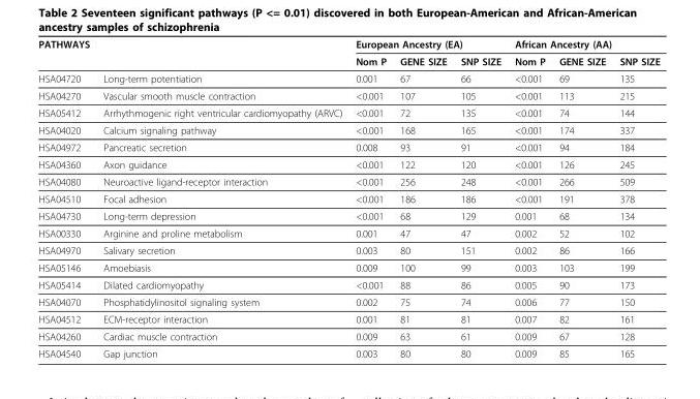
<table><thead><tr><td rowspan="2">PATHWAYS</td><td rowspan="2"></td><td colspan="3">European Ancestry (EA)</td><td colspan="3">African Ancestry (AA)</td></tr><tr><td>Nom P</td><td>GENE SIZE</td><td>SNP SIZE</td><td>Nom P</td><td>GENE SIZE</td><td>SNP SIZE</td></tr></thead><tbody><tr><td>HSA04720</td><td>Long-term potentiation</td><td>0.001</td><td>67</td><td>66</td><td>&lt;0.001</td><td>69</td><td>135</td></tr><tr><td>HSA04270</td><td>Vascular smooth muscle contraction</td><td>&lt;0.001</td><td>107</td><td>105</td><td>&lt;0.001</td><td>113</td><td>215</td></tr><tr><td>HSA05412</td><td>Arrhythmogenic right ventricular cardiomyopathy (ARVC)</td><td>&lt;0.001</td><td>72</td><td>135</td><td>&lt;0.001</td><td>74</td><td>144</td></tr><tr><td>HSA04020</td><td>Calcium signaling pathway</td><td>&lt;0.001</td><td>168</td><td>165</td><td>&lt;0.001</td><td>174</td><td>337</td></tr><tr><td>HSA04972</td><td>Pancreatic secretion</td><td>0.008</td><td>93</td><td>91</td><td>&lt;0.001</td><td>94</td><td>184</td></tr><tr><td>HSA04360</td><td>Axon guidance</td><td>&lt;0.001</td><td>122</td><td>120</td><td>&lt;0.001</td><td>126</td><td>245</td></tr><tr><td>HSA04080</td><td>Neuroactive ligand-receptor interaction</td><td>&lt;0.001</td><td>256</td><td>248</td><td>&lt;0.001</td><td>266</td><td>509</td></tr><tr><td>HSA04510</td><td>Focal adhesion</td><td>&lt;0.001</td><td>186</td><td>186</td><td>&lt;0.001</td><td>191</td><td>378</td></tr><tr><td>HSA04730</td><td>Long-term depression</td><td>&lt;0.001</td><td>68</td><td>129</td><td>0.001</td><td>68</td><td>134</td></tr><tr><td>HSA00330</td><td>Arginine and proline metabolism</td><td>0.001</td><td>47</td><td>47</td><td>0.002</td><td>52</td><td>102</td></tr><tr><td>HSA04970</td><td>Salivary secretion</td><td>0.003</td><td>80</td><td>151</td><td>0.002</td><td>86</td><td>166</td></tr><tr><td>HSA05146</td><td>Amoebiasis</td><td>0.009</td><td>100</td><td>99</td><td>0.003</td><td>103</td><td>199</td></tr><tr><td>HSA05414</td><td>Dilated cardiomyopathy</td><td>&lt;0.001</td><td>88</td><td>86</td><td>0.005</td><td>90</td><td>173</td></tr><tr><td>HSA04070</td><td>Phosphatidylinositol signaling system</td><td>0.002</td><td>75</td><td>74</td><td>0.006</td><td>77</td><td>150</td></tr><tr><td>HSA04512</td><td>ECM-receptor interaction</td><td>0.001</td><td>81</td><td>81</td><td>0.007</td><td>82</td><td>161</td></tr><tr><td>HSA04260</td><td>Cardiac muscle contraction</td><td>0.009</td><td>63</td><td>61</td><td>0.009</td><td>67</td><td>128</td></tr><tr><td>HSA04540</td><td>Gap junction</td><td>0.003</td><td>80</td><td>80</td><td>0.009</td><td>85</td><td>165</td></tr></tbody></table>